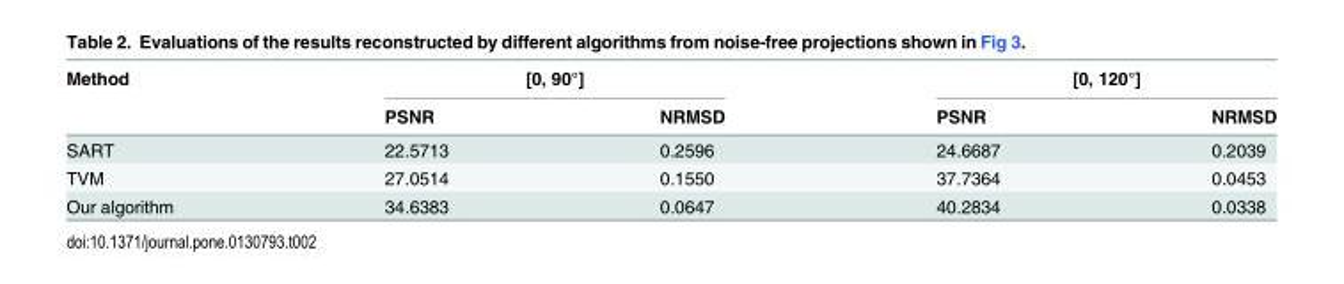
<table><thead><tr><td rowspan="2">Method</td><td colspan="2">[0, 90°]</td><td colspan="2">[0, 120°]</td></tr><tr><td>PSNR</td><td>NRMSD</td><td>PSNR</td><td>NRMSD</td></tr></thead><tbody><tr><td>SART</td><td>22.5713</td><td>0.2596</td><td>24.6687</td><td>0.2039</td></tr><tr><td>TVM</td><td>27.0514</td><td>0.1550</td><td>37.7364</td><td>0.0453</td></tr><tr><td>Our algorithm</td><td>34.6383</td><td>0.0647</td><td>40.2834</td><td>0.0338</td></tr></tbody></table>